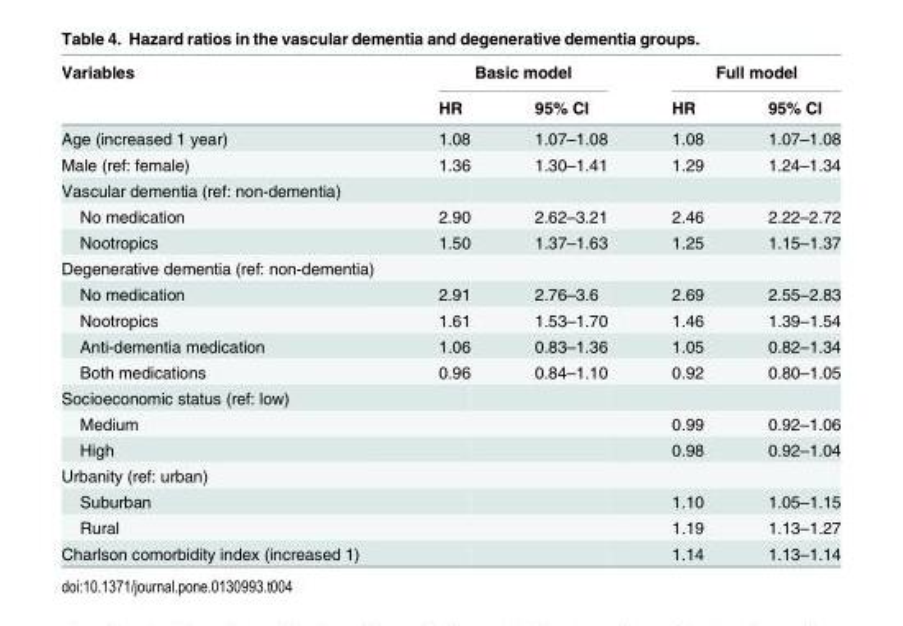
<table><thead><tr><td rowspan="2">Variables</td><td colspan="2">Basic model</td><td colspan="2">Full model</td></tr><tr><td>HR</td><td>95% CI</td><td>HR</td><td>95% CI</td></tr></thead><tbody><tr><td>Age (increased 1 year)</td><td>1.08</td><td>1.07–1.08</td><td>1.08</td><td>1.07–1.08</td></tr><tr><td>Male (ref: female)</td><td>1.36</td><td>1.30–1.41</td><td>1.29</td><td>1.24–1.34</td></tr><tr><td colspan="5">Vascular dementia (ref: non-dementia)</td></tr><tr><td>No medication</td><td>2.90</td><td>2.62–3.21</td><td>2.46</td><td>2.22–2.72</td></tr><tr><td>Nootropics</td><td>1.50</td><td>1.37–1.63</td><td>1.25</td><td>1.15–1.37</td></tr><tr><td colspan="5">Degenerative dementia (ref: non-dementia)</td></tr><tr><td>No medication</td><td>2.91</td><td>2.76–3.6</td><td>2.69</td><td>2.55–2.83</td></tr><tr><td>Nootropics</td><td>1.61</td><td>1.53–1.70</td><td>1.46</td><td>1.39–1.54</td></tr><tr><td>Anti-dementia medication</td><td>1.06</td><td>0.83–1.36</td><td>1.05</td><td>0.82–1.34</td></tr><tr><td>Both medications</td><td>0.96</td><td>0.84–1.10</td><td>0.92</td><td>0.80–1.05</td></tr><tr><td colspan="5">Socioeconomic status (ref: low)</td></tr><tr><td>Medium</td><td></td><td></td><td>0.99</td><td>0.92–1.06</td></tr><tr><td>High</td><td></td><td></td><td>0.98</td><td>0.92–1.04</td></tr><tr><td colspan="5">Urbanity (ref: urban)</td></tr><tr><td>Suburban</td><td></td><td></td><td>1.10</td><td>1.05–1.15</td></tr><tr><td>Rural</td><td></td><td></td><td>1.19</td><td>1.13–1.27</td></tr><tr><td>Charlson comorbidity index (increased 1)</td><td></td><td></td><td>1.14</td><td>1.13–1.14</td></tr></tbody></table>